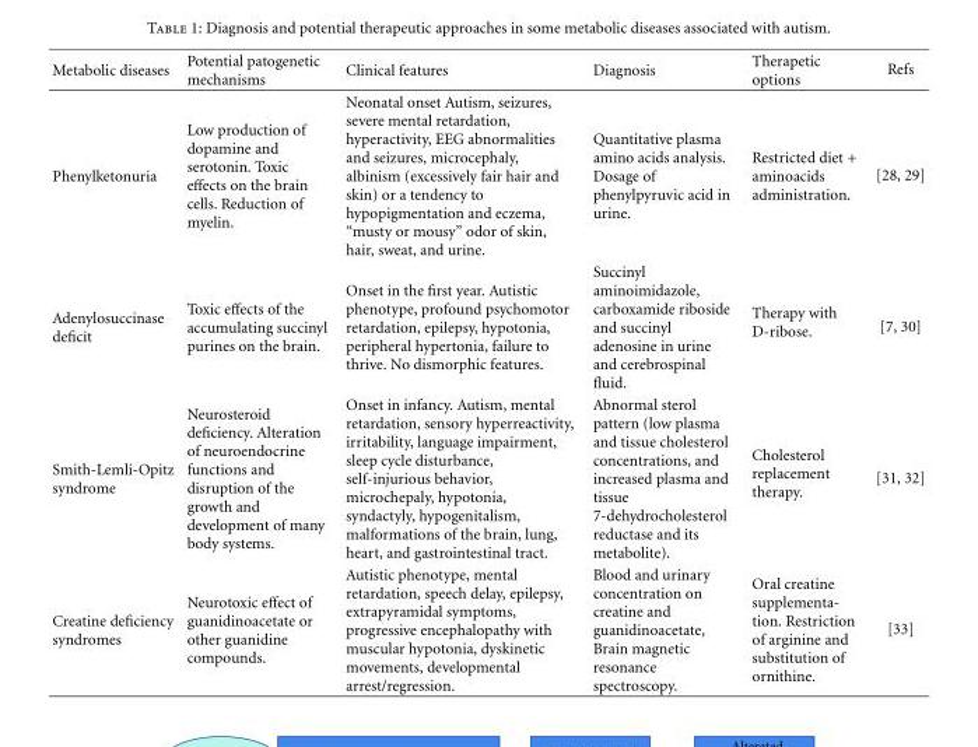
<table><thead><tr><td>Metabolic diseases</td><td>Potential patogenetic mechanisms</td><td>Clinical features</td><td>Diagnosis</td><td>Therapetic options</td><td>Refs</td></tr></thead><tbody><tr><td>Phenylketonuria</td><td>Low production of dopamine and serotonin. Toxic effects on the brain cells. Reduction of myelin.</td><td>Neonatal onset Autism, seizures, severe mental retardation, hyperactivity, EEG abnormalities and seizures, microcephaly, albinism (excessively fair hair and skin) or a tendency to hypopigmentation and eczema, “musty or mousy” odor of skin, hair, sweat, and urine.</td><td>Quantitative plasma amino acids analysis. Dosage of phenylpyruvic acid in urine.</td><td>Restricted diet + aminoacids administration.</td><td>[28, 29]</td></tr><tr><td>Adenylosuccinase deficit</td><td>Toxic effects of the accumulating succinyl purines on the brain.</td><td>Onset in the first year. Autistic phenotype, profound psychomotor retardation, epilepsy, hypotonia, peripheral hypertonia, failure to thrive. No dismorphic features.</td><td>Succinyl aminoimidazole, carboxamide riboside and succinyl adenosine in urine and cerebrospinal fluid.</td><td>Therapy with D-ribose.</td><td>[7, 30]</td></tr><tr><td>Smith-Lemli-Opitz syndrome</td><td>Neurosteroid deficiency. Alteration of neuroendocrine functions and disruption of the growth and development of many body systems.</td><td>Onset in infancy. Autism, mental retardation, sensory hyperreactivity, irritability, language impairment, sleep cycle disturbance, self-injurious behavior, microchepaly, hypotonia, syndactyly, hypogenitalism, malformations of the brain, lung, heart, and gastrointestinal tract.</td><td>Abnormal sterol pattern (low plasma and tissue cholesterol concentrations, and increased plasma and tissue 7-dehydrocholesterol reductase and its metabolite).</td><td>Cholesterol replacement therapy.</td><td>[31, 32]</td></tr><tr><td>Creatine deficiency syndromes</td><td>Neurotoxic effect of guanidinoacetate or other guanidine compounds.</td><td>Autistic phenotype, mental retardation, speech delay, epilepsy, extrapyramidal symptoms, progressive encephalopathy with muscular hypotonia, dyskinetic movements, developmental arrest/regression.</td><td>Blood and urinary concentration on creatine and guanidinoacetate, Brain magnetic resonance spectroscopy.</td><td>Oral creatine supplementa- tion. Restriction of arginine and substitution of ornithine.</td><td>[33]</td></tr></tbody></table>